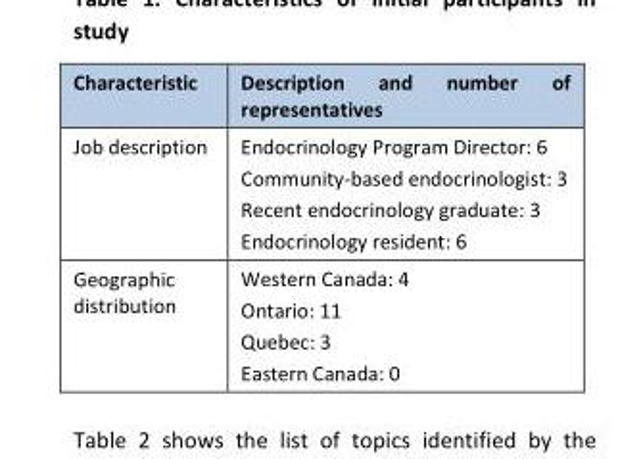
<table><thead><tr><td>Characteristic</td><td>Description and number of representatives</td></tr></thead><tbody><tr><td>Job description</td><td>Endocrinology Program Director: 6 Community-based endocrinologist: 3 Recent endocrinology graduate: 3 Endocrinology resident: 6</td></tr><tr><td>Geographic distribution</td><td>Western Canada: 4 Ontario: 11 Quebec: 3 Eastern Canada: 0</td></tr></tbody></table>